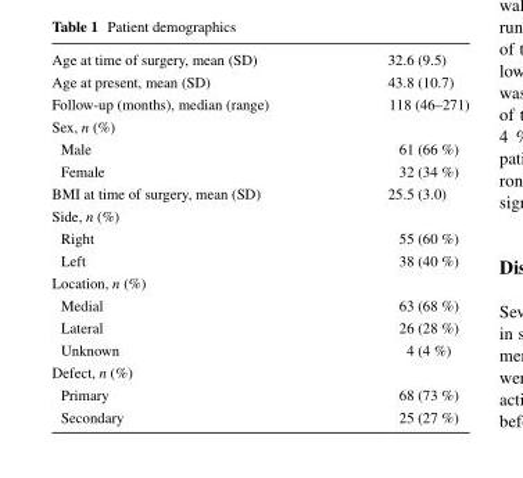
<table><tbody><tr><td>Age at time of surgery, mean (SD)</td><td>32.6 (9.5)</td></tr><tr><td>Age at present, mean (SD)</td><td>43.8 (10.7)</td></tr><tr><td>Follow-up (months), median (range)</td><td>118 (46–271)</td></tr><tr><td colspan="2">Sex, n (%)</td></tr><tr><td>Male</td><td>61 (66 %)</td></tr><tr><td>Female</td><td>32 (34 %)</td></tr><tr><td>BMI at time of surgery, mean (SD)</td><td>25.5 (3.0)</td></tr><tr><td colspan="2">Side, n (%)</td></tr><tr><td>Right</td><td>55 (60 %)</td></tr><tr><td>Left</td><td>38 (40 %)</td></tr><tr><td colspan="2">Location, n (%)</td></tr><tr><td>Medial</td><td>63 (68 %)</td></tr><tr><td>Lateral</td><td>26 (28 %)</td></tr><tr><td>Unknown</td><td>4 (4 %)</td></tr><tr><td colspan="2">Defect, n (%)</td></tr><tr><td>Primary</td><td>68 (73 %)</td></tr><tr><td>Secondary</td><td>25 (27 %)</td></tr></tbody></table>